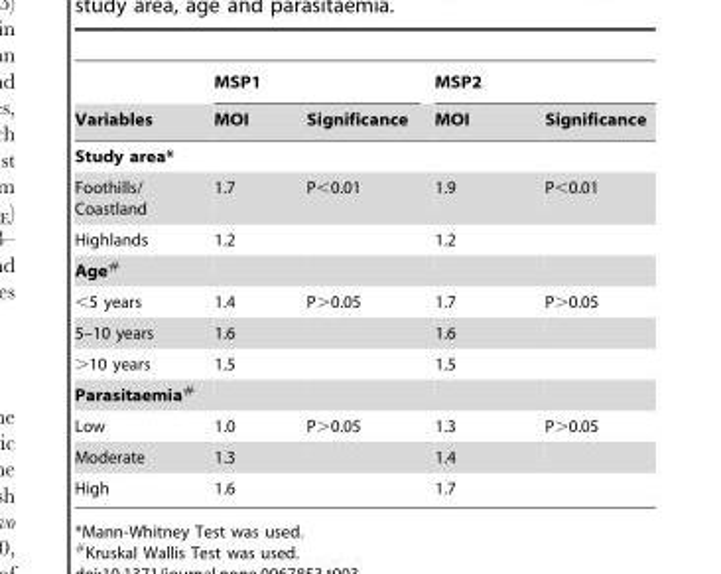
<table><thead><tr><td rowspan="2">Variables</td><td colspan="2">MSP1</td><td colspan="2">MSP2</td></tr><tr><td>MOI</td><td>Significance</td><td>MOI</td><td>Significance</td></tr></thead><tbody><tr><td colspan="5">Study area*</td></tr><tr><td>Foothills/ Coastland</td><td>1.7</td><td>P&lt;0.01</td><td>1.9</td><td>P&lt;0.01</td></tr><tr><td>Highlands</td><td>1.2</td><td></td><td>1.2</td><td></td></tr><tr><td colspan="5">Age#</td></tr><tr><td>&lt;5 years</td><td>1.4</td><td>P&gt;0.05</td><td>1.7</td><td>P&gt;0.05</td></tr><tr><td>5–10 years</td><td>1.6</td><td></td><td>1.6</td><td></td></tr><tr><td>&gt;10 years</td><td>1.5</td><td></td><td>1.5</td><td></td></tr><tr><td colspan="5">Parasitaemia#</td></tr><tr><td>Low</td><td>1.0</td><td>P&gt;0.05</td><td>1.3</td><td>P&gt;0.05</td></tr><tr><td>Moderate</td><td>1.3</td><td></td><td>1.4</td><td></td></tr><tr><td>High</td><td>1.6</td><td></td><td>1.7</td><td></td></tr></tbody></table>